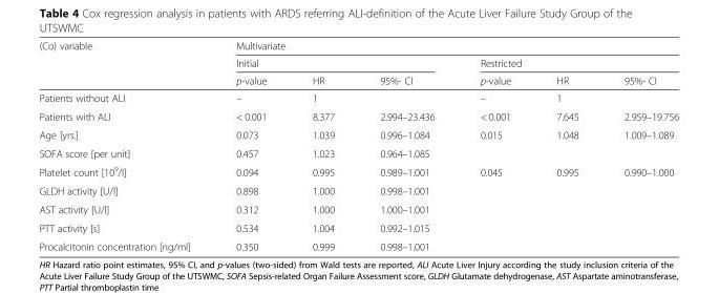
<table><thead><tr><td rowspan="3">(Co) variable</td><td colspan="6">Multivariate</td></tr><tr><td colspan="3">Initial</td><td colspan="3">Restricted</td></tr><tr><td>p-value</td><td>HR</td><td>95%- CI</td><td>p-value</td><td>HR</td><td>95%- CI</td></tr></thead><tbody><tr><td>Patients without ALI</td><td>–</td><td>1</td><td></td><td>–</td><td>1</td><td></td></tr><tr><td>Patients with ALI</td><td>&lt; 0.001</td><td>8.377</td><td>2.994–23.436</td><td>&lt; 0.001</td><td>7.645</td><td>2.959–19.756</td></tr><tr><td>Age [yrs.]</td><td>0.073</td><td>1.039</td><td>0.996–1.084</td><td>0.015</td><td>1.048</td><td>1.009–1.089</td></tr><tr><td>SOFA score [per unit]</td><td>0.457</td><td>1.023</td><td>0.964–1.085</td><td></td><td></td><td></td></tr><tr><td>Platelet count [10<sup>9</sup>/l]</td><td>0.094</td><td>0.995</td><td>0.989–1.001</td><td>0.045</td><td>0.995</td><td>0.990–1.000</td></tr><tr><td>GLDH activity [U/l]</td><td>0.898</td><td>1.000</td><td>0.998–1.001</td><td></td><td></td><td></td></tr><tr><td>AST activity [U/l]</td><td>0.312</td><td>1.000</td><td>1.000–1.001</td><td></td><td></td><td></td></tr><tr><td>PTT activity [s]</td><td>0.534</td><td>1.004</td><td>0.992–1.015</td><td></td><td></td><td></td></tr><tr><td>Procalcitonin concentration [ng/ml]</td><td>0.350</td><td>0.999</td><td>0.998–1.001</td><td></td><td></td><td></td></tr></tbody></table>